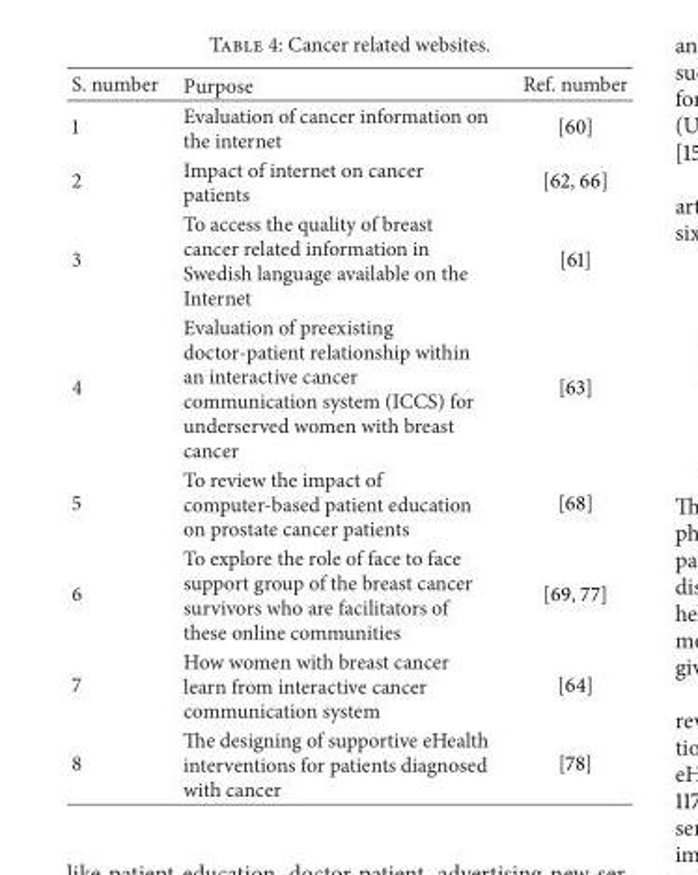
<table><thead><tr><td>S. number</td><td>Purpose</td><td>Ref. number</td></tr></thead><tbody><tr><td>1</td><td>Evaluation of cancer information on the internet</td><td>[60]</td></tr><tr><td>2</td><td>Impact of internet on cancer patients</td><td>[62, 66]</td></tr><tr><td>3</td><td>To access the quality of breast cancer related information in Swedish language available on the Internet</td><td>[61]</td></tr><tr><td>4</td><td>Evaluation of preexisting doctor-patient relationship within an interactive cancer communication system (ICCS) for underserved women with breast cancer</td><td>[63]</td></tr><tr><td>5</td><td>To review the impact of computer-based patient education on prostate cancer patients</td><td>[68]</td></tr><tr><td>6</td><td>To explore the role of face to face support group of the breast cancer survivors who are facilitators of these online communities</td><td>[69, 77]</td></tr><tr><td>7</td><td>How women with breast cancer learn from interactive cancer communication system</td><td>[64]</td></tr><tr><td>8</td><td>The designing of supportive eHealth interventions for patients diagnosed with cancer</td><td>[78]</td></tr></tbody></table>